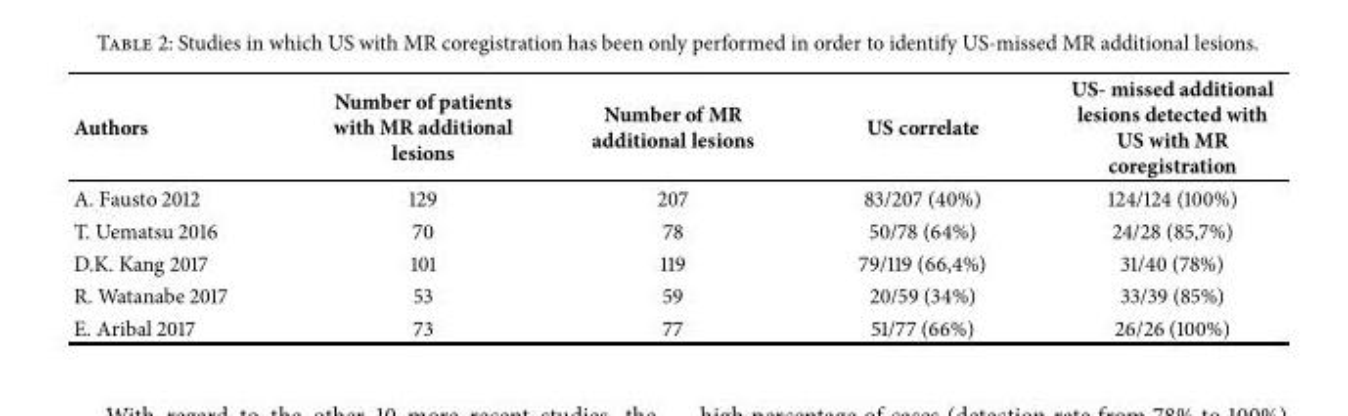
<table><thead><tr><td>Authors</td><td>Number of patients with MR additional lesions</td><td>Number of MR additional lesions</td><td>US correlate</td><td>US- missed additional lesions detected with US with MR coregistration</td></tr></thead><tbody><tr><td>A. Fausto 2012</td><td>129</td><td>207</td><td>83/207 (40%)</td><td>124/124 (100%)</td></tr><tr><td>T. Uematsu 2016</td><td>70</td><td>78</td><td>50/78 (64%)</td><td>24/28 (85,7%)</td></tr><tr><td>D.K. Kang 2017</td><td>101</td><td>119</td><td>79/119 (66,4%)</td><td>31/40 (78%)</td></tr><tr><td>R. Watanabe 2017</td><td>53</td><td>59</td><td>20/59 (34%)</td><td>33/39 (85%)</td></tr><tr><td>E. Aribal 2017</td><td>73</td><td>77</td><td>51/77 (66%)</td><td>26/26 (100%)</td></tr></tbody></table>